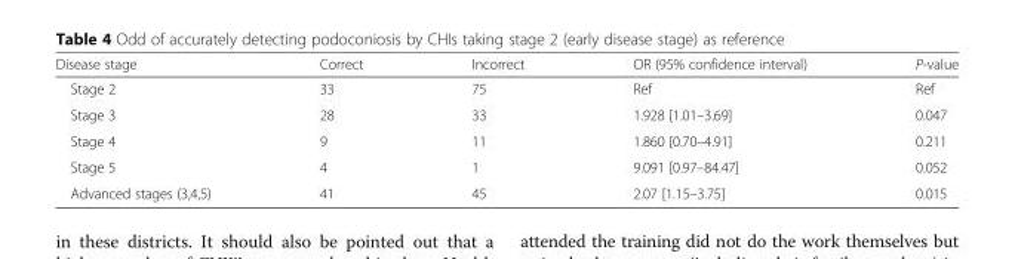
<table><thead><tr><td>Disease stage</td><td>Correct</td><td>Incorrect</td><td>OR (95% confidence interval)</td><td>P-value</td></tr></thead><tbody><tr><td>Stage 2</td><td>33</td><td>75</td><td>Ref</td><td>Ref</td></tr><tr><td>Stage 3</td><td>28</td><td>33</td><td>1.928 [1.01–3.69]</td><td>0.047</td></tr><tr><td>Stage 4</td><td>9</td><td>11</td><td>1.860 [0.70–4.91]</td><td>0.211</td></tr><tr><td>Stage 5</td><td>4</td><td>1</td><td>9.091 [0.97–84.47]</td><td>0.052</td></tr><tr><td>Advanced stages (3,4,5)</td><td>41</td><td>45</td><td>2.07 [1.15–3.75]</td><td>0.015</td></tr></tbody></table>